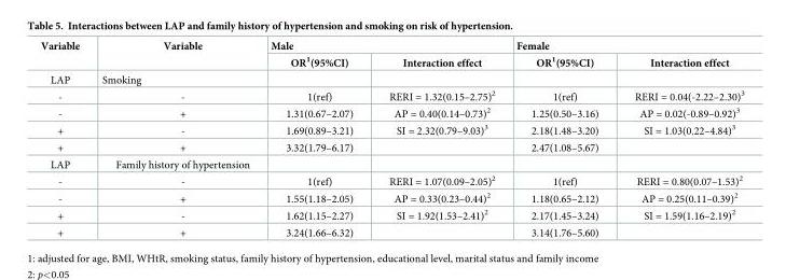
<table><thead><tr><td rowspan="2">Variable</td><td rowspan="2">Variable</td><td colspan="2">Male</td><td colspan="2">Female</td></tr><tr><td>OR<sup>1</sup>(95%CI)</td><td>Interaction effect</td><td>OR<sup>1</sup>(95%CI)</td><td>Interaction effect</td></tr></thead><tbody><tr><td>LAP</td><td>Smoking</td><td></td><td></td><td></td><td></td></tr><tr><td>-</td><td>-</td><td>1(ref)</td><td>RERI = 1.32(0.15–2.75)<sup>2</sup></td><td>1(ref)</td><td>RERI = 0.04(-2.22–2.30)<sup>3</sup></td></tr><tr><td>-</td><td>+</td><td>1.31(0.67–2.07)</td><td>AP = 0.40(0.14–0.73)<sup>2</sup></td><td>1.25(0.50–3.16)</td><td>AP = 0.02(-0.89–0.92)<sup>3</sup></td></tr><tr><td>+</td><td>-</td><td>1.69(0.89–3.21)</td><td>SI = 2.32(0.79–9.03)<sup>3</sup></td><td>2.18(1.48–3.20)</td><td>SI = 1.03(0.22–4.84)<sup>3</sup></td></tr><tr><td>+</td><td>+</td><td>3.32(1.79–6.17)</td><td></td><td>2.47(1.08–5.67)</td><td></td></tr><tr><td>LAP</td><td>Family history of hypertension</td><td></td><td></td><td></td><td></td></tr><tr><td>-</td><td>-</td><td>1(ref)</td><td>RERI = 1.07(0.09–2.05)<sup>2</sup></td><td>1(ref)</td><td>RERI = 0.80(0.07–1.53)<sup>2</sup></td></tr><tr><td>-</td><td>+</td><td>1.55(1.18–2.05)</td><td>AP = 0.33(0.23–0.44)<sup>2</sup></td><td>1.18(0.65–2.12)</td><td>AP = 0.25(0.11–0.39)<sup>2</sup></td></tr><tr><td>+</td><td>-</td><td>1.62(1.15–2.27)</td><td>SI = 1.92(1.53–2.41)<sup>2</sup></td><td>2.17(1.45–3.24)</td><td>SI = 1.59(1.16–2.19)<sup>2</sup></td></tr><tr><td>+</td><td>+</td><td>3.24(1.66–6.32)</td><td></td><td>3.14(1.76–5.60)</td><td></td></tr></tbody></table>